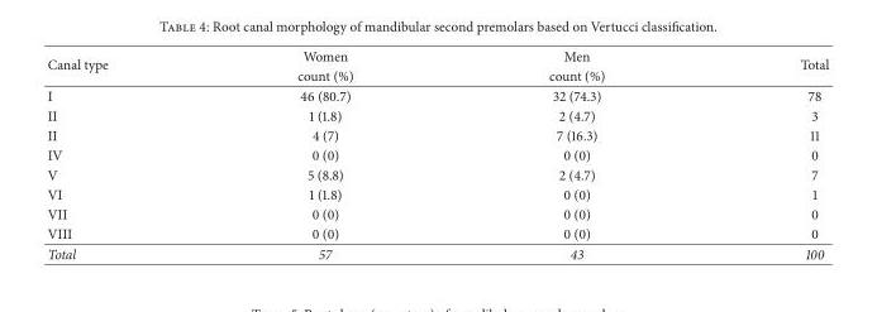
<table><thead><tr><td rowspan="2">Canal type</td><td rowspan="2">Women count (%)</td><td rowspan="2">Men count (%)</td><td rowspan="2">Total</td></tr><tr></tr></thead><tbody><tr><td>I</td><td>46 (80.7)</td><td>32 (74.3)</td><td>78</td></tr><tr><td>II</td><td>1 (1.8)</td><td>2 (4.7)</td><td>3</td></tr><tr><td>II</td><td>4 (7)</td><td>7 (16.3)</td><td>11</td></tr><tr><td>IV</td><td>0 (0)</td><td>0 (0)</td><td>0</td></tr><tr><td>V</td><td>5 (8.8)</td><td>2 (4.7)</td><td>7</td></tr><tr><td>VI</td><td>1 (1.8)</td><td>0 (0)</td><td>1</td></tr><tr><td>VII</td><td>0 (0)</td><td>0 (0)</td><td>0</td></tr><tr><td>VIII</td><td>0 (0)</td><td>0 (0)</td><td>0</td></tr><tr><td>Total</td><td>57</td><td>43</td><td>100</td></tr></tbody></table>